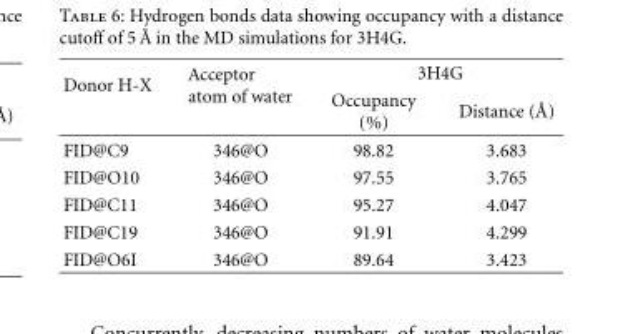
<table><thead><tr><td rowspan="2">Donor H-X</td><td rowspan="2">Acceptor atom of water</td><td colspan="2">3H4G</td></tr><tr><td>Occupancy (%)</td><td>Distance ( ˚A)</td></tr></thead><tbody><tr><td>FID@C9</td><td>346@O</td><td>98.82</td><td>3.683</td></tr><tr><td>FID@O10</td><td>346@O</td><td>97.55</td><td>3.765</td></tr><tr><td>FID@C11</td><td>346@O</td><td>95.27</td><td>4.047</td></tr><tr><td>FID@C19</td><td>346@O</td><td>91.91</td><td>4.299</td></tr><tr><td>FID@O6I</td><td>346@O</td><td>89.64</td><td>3.423</td></tr></tbody></table>